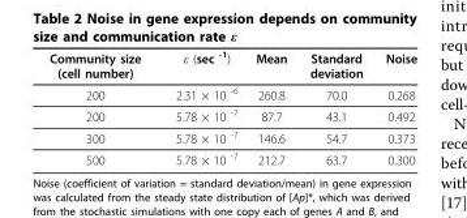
<table><thead><tr><td>Community size (cell number)</td><td>ε (sec <sup>-1</sup>)</td><td>Mean</td><td>Standard deviation</td><td>Noise</td></tr></thead><tbody><tr><td>200</td><td>2.31 × 10 <sup>-6</sup></td><td>260.8</td><td>70.0</td><td>0.268</td></tr><tr><td>200</td><td>5.78 × 10 <sup>-7</sup></td><td>87.7</td><td>43.1</td><td>0.492</td></tr><tr><td>300</td><td>5.78 × 10 <sup>-7</sup></td><td>146.6</td><td>54.7</td><td>0.373</td></tr><tr><td>500</td><td>5.78 × 10 <sup>-7</sup></td><td>212.7</td><td>63.7</td><td>0.300</td></tr></tbody></table>